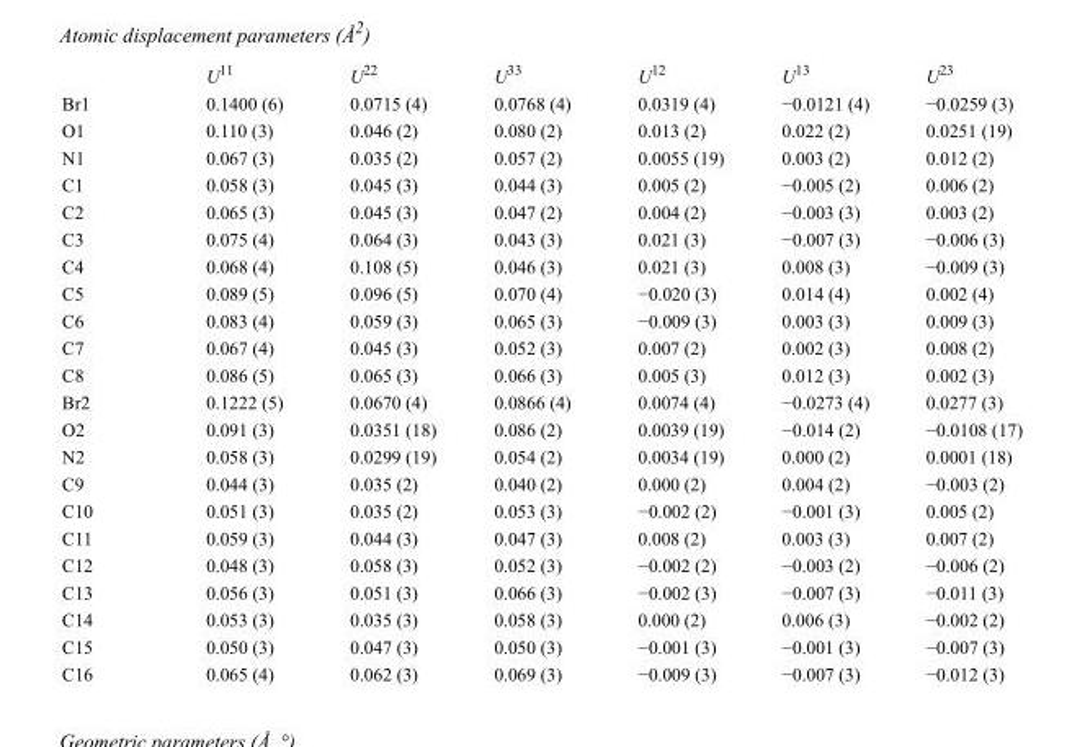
<table><thead><tr><td></td><td>U<sup>11</sup></td><td>U<sup>22</sup></td><td>U<sup>33</sup></td><td>U<sup>12</sup></td><td>U<sup>13</sup></td><td>U<sup>23</sup></td></tr></thead><tbody><tr><td>Br1</td><td>0.1400 (6)</td><td>0.0715 (4)</td><td>0.0768 (4)</td><td>0.0319 (4)</td><td>−0.0121 (4)</td><td>−0.0259 (3)</td></tr><tr><td>O1</td><td>0.110 (3)</td><td>0.046 (2)</td><td>0.080 (2)</td><td>0.013 (2)</td><td>0.022 (2)</td><td>0.0251 (19)</td></tr><tr><td>N1</td><td>0.067 (3)</td><td>0.035 (2)</td><td>0.057 (2)</td><td>0.0055 (19)</td><td>0.003 (2)</td><td>0.012 (2)</td></tr><tr><td>C1</td><td>0.058 (3)</td><td>0.045 (3)</td><td>0.044 (3)</td><td>0.005 (2)</td><td>−0.005 (2)</td><td>0.006 (2)</td></tr><tr><td>C2</td><td>0.065 (3)</td><td>0.045 (3)</td><td>0.047 (2)</td><td>0.004 (2)</td><td>−0.003 (3)</td><td>0.003 (2)</td></tr><tr><td>C3</td><td>0.075 (4)</td><td>0.064 (3)</td><td>0.043 (3)</td><td>0.021 (3)</td><td>−0.007 (3)</td><td>−0.006 (3)</td></tr><tr><td>C4</td><td>0.068 (4)</td><td>0.108 (5)</td><td>0.046 (3)</td><td>0.021 (3)</td><td>0.008 (3)</td><td>−0.009 (3)</td></tr><tr><td>C5</td><td>0.089 (5)</td><td>0.096 (5)</td><td>0.070 (4)</td><td>−0.020 (3)</td><td>0.014 (4)</td><td>0.002 (4)</td></tr><tr><td>C6</td><td>0.083 (4)</td><td>0.059 (3)</td><td>0.065 (3)</td><td>−0.009 (3)</td><td>0.003 (3)</td><td>0.009 (3)</td></tr><tr><td>C7</td><td>0.067 (4)</td><td>0.045 (3)</td><td>0.052 (3)</td><td>0.007 (2)</td><td>0.002 (3)</td><td>0.008 (2)</td></tr><tr><td>C8</td><td>0.086 (5)</td><td>0.065 (3)</td><td>0.066 (3)</td><td>0.005 (3)</td><td>0.012 (3)</td><td>0.002 (3)</td></tr><tr><td>Br2</td><td>0.1222 (5)</td><td>0.0670 (4)</td><td>0.0866 (4)</td><td>0.0074 (4)</td><td>−0.0273 (4)</td><td>0.0277 (3)</td></tr><tr><td>O2</td><td>0.091 (3)</td><td>0.0351 (18)</td><td>0.086 (2)</td><td>0.0039 (19)</td><td>−0.014 (2)</td><td>−0.0108 (17)</td></tr><tr><td>N2</td><td>0.058 (3)</td><td>0.0299 (19)</td><td>0.054 (2)</td><td>0.0034 (19)</td><td>0.000 (2)</td><td>0.0001 (18)</td></tr><tr><td>C9</td><td>0.044 (3)</td><td>0.035 (2)</td><td>0.040 (2)</td><td>0.000 (2)</td><td>0.004 (2)</td><td>−0.003 (2)</td></tr><tr><td>C10</td><td>0.051 (3)</td><td>0.035 (2)</td><td>0.053 (3)</td><td>−0.002 (2)</td><td>−0.001 (3)</td><td>0.005 (2)</td></tr><tr><td>C11</td><td>0.059 (3)</td><td>0.044 (3)</td><td>0.047 (3)</td><td>0.008 (2)</td><td>0.003 (3)</td><td>0.007 (2)</td></tr><tr><td>C12</td><td>0.048 (3)</td><td>0.058 (3)</td><td>0.052 (3)</td><td>−0.002 (2)</td><td>−0.003 (2)</td><td>−0.006 (2)</td></tr><tr><td>C13</td><td>0.056 (3)</td><td>0.051 (3)</td><td>0.066 (3)</td><td>−0.002 (3)</td><td>−0.007 (3)</td><td>−0.011 (3)</td></tr><tr><td>C14</td><td>0.053 (3)</td><td>0.035 (3)</td><td>0.058 (3)</td><td>0.000 (2)</td><td>0.006 (3)</td><td>−0.002 (2)</td></tr><tr><td>C15</td><td>0.050 (3)</td><td>0.047 (3)</td><td>0.050 (3)</td><td>−0.001 (3)</td><td>−0.001 (3)</td><td>−0.007 (3)</td></tr><tr><td>C16</td><td>0.065 (4)</td><td>0.062 (3)</td><td>0.069 (3)</td><td>−0.009 (3)</td><td>−0.007 (3)</td><td>−0.012 (3)</td></tr></tbody></table>